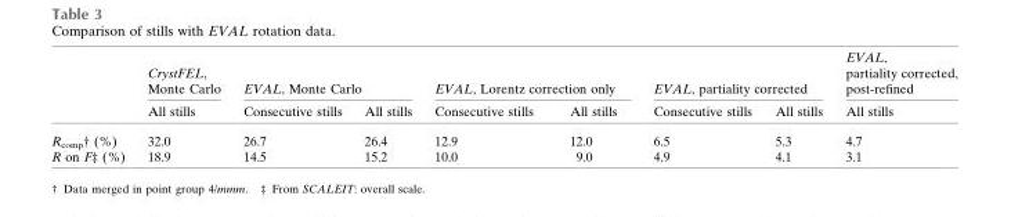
<table><thead><tr><td rowspan="2"></td><td rowspan="2">CrystFEL, Monte Carlo All stills</td><td colspan="2">EVAL, Monte Carlo</td><td colspan="2">EVAL, Lorentz correction only</td><td colspan="2">EVAL, partiality corrected</td><td rowspan="2">EVAL, partiality corrected, post-refined All stills</td></tr><tr><td>Consecutive stills</td><td>All stills</td><td>Consecutive stills</td><td>All stills</td><td>Consecutive stills</td><td>All stills</td></tr></thead><tbody><tr><td>R<sub>comp</sub>† (%)</td><td>32.0</td><td>26.7</td><td>26.4</td><td>12.9</td><td>12.0</td><td>6.5</td><td>5.3</td><td>4.7</td></tr><tr><td>R on F‡ (%)</td><td>18.9</td><td>14.5</td><td>15.2</td><td>10.0</td><td>9.0</td><td>4.9</td><td>4.1</td><td>3.1</td></tr></tbody></table>